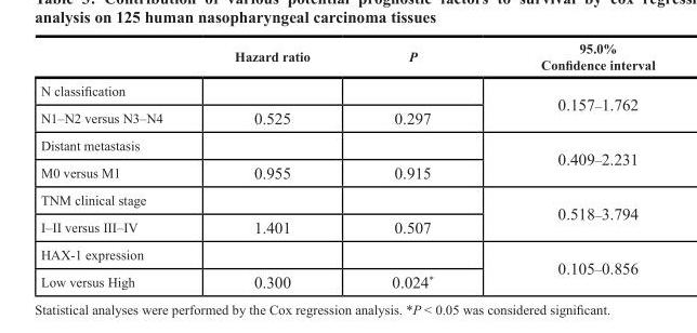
<table><thead><tr><td></td><td>Hazard ratio</td><td>P</td><td>95.0% Confidence interval</td></tr></thead><tbody><tr><td colspan="3">N classification</td><td rowspan="2">0.157–1.762</td></tr><tr><td>N1–N2 versus N3–N4</td><td>0.525</td><td>0.297</td></tr><tr><td colspan="3">Distant metastasis</td><td rowspan="2">0.409–2.231</td></tr><tr><td>M0 versus M1</td><td>0.955</td><td>0.915</td></tr><tr><td colspan="3">TNM clinical stage</td><td rowspan="2">0.518–3.794</td></tr><tr><td>I–II versus III–IV</td><td>1.401</td><td>0.507</td></tr><tr><td colspan="3">HAX-1 expression</td><td rowspan="2">0.105–0.856</td></tr><tr><td>Low versus High</td><td>0.300</td><td>0.024*</td></tr></tbody></table>